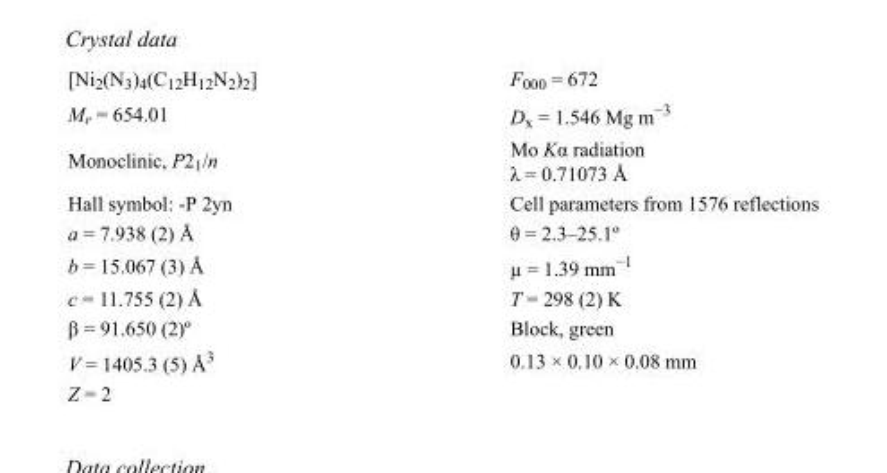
<table><tbody><tr><td>[Ni<sub>2</sub>(N<sub>3</sub>)<sub>4</sub>(C<sub>12</sub>H<sub>12</sub>N<sub>2</sub>)<sub>2</sub>]</td><td>F<sub>000</sub> = 672</td></tr><tr><td>M<sub>r</sub> = 654.01</td><td>D<sub>x</sub> = 1.546 Mg m<sup>−3</sup></td></tr><tr><td>Monoclinic, P2<sub>1</sub>/n</td><td>Mo Kα radiation λ = 0.71073 Å</td></tr><tr><td>Hall symbol: -P 2yn</td><td>Cell parameters from 1576 reflections</td></tr><tr><td>a = 7.938 (2) Å</td><td>θ = 2.3–25.1º</td></tr><tr><td>b = 15.067 (3) Å</td><td>µ = 1.39 mm<sup>−1</sup></td></tr><tr><td>c = 11.755 (2) Å</td><td>T = 298 (2) K</td></tr><tr><td>β = 91.650 (2)º</td><td>Block, green</td></tr><tr><td>V = 1405.3 (5) Å<sup>3</sup></td><td>0.13 × 0.10 × 0.08 mm</td></tr><tr><td>Z = 2</td><td></td></tr></tbody></table>